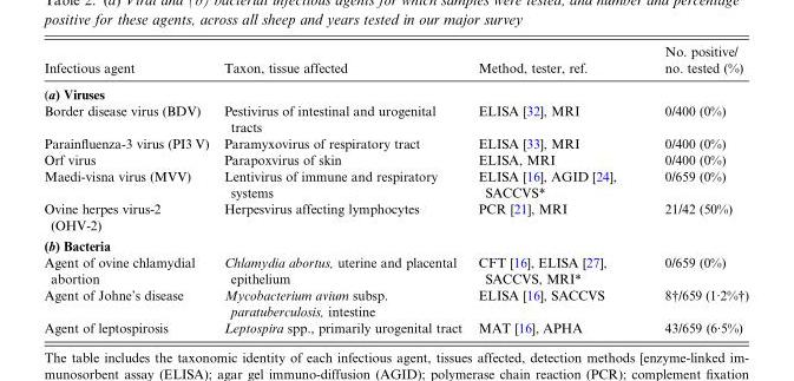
<table><thead><tr><td>Infectious agent</td><td>Taxon, tissue affected</td><td>Method, tester, ref.</td><td>No. positive/ no. tested (%)</td></tr></thead><tbody><tr><td colspan="4">(a) Viruses</td></tr><tr><td>Border disease virus (BDV)</td><td>Pestivirus of intestinal and urogenital tracts</td><td>ELISA [32], MRI</td><td>0/400 (0%)</td></tr><tr><td>Parainfluenza-3 virus (PI3 V)</td><td>Paramyxovirus of respiratory tract</td><td>ELISA [33], MRI</td><td>0/400 (0%)</td></tr><tr><td>Orf virus</td><td>Parapoxvirus of skin</td><td>ELISA, MRI</td><td>0/400 (0%)</td></tr><tr><td>Maedi-visna virus (MVV)</td><td>Lentivirus of immune and respiratory systems</td><td>ELISA [16], AGID [24], SACCVS*</td><td>0/659 (0%)</td></tr><tr><td>Ovine herpes virus-2 (OHV-2)</td><td>Herpesvirus affecting lymphocytes</td><td>PCR [21], MRI</td><td>21/42 (50%)</td></tr><tr><td colspan="4">(b) Bacteria</td></tr><tr><td>Agent of ovine chlamydial abortion</td><td>Chlamydia abortus, uterine and placental epithelium</td><td>CFT [16], ELISA [27], SACCVS, MRI*</td><td>0/659 (0%)</td></tr><tr><td>Agent of Johne’s disease</td><td>Mycobacterium avium subsp. paratuberculosis, intestine</td><td>ELISA [16], SACCVS</td><td>8†/659 (1·2%†)</td></tr><tr><td>Agent of leptospirosis</td><td>Leptospira spp., primarily urogenital tract</td><td>MAT [16], APHA</td><td>43/659 (6·5%)</td></tr></tbody></table>